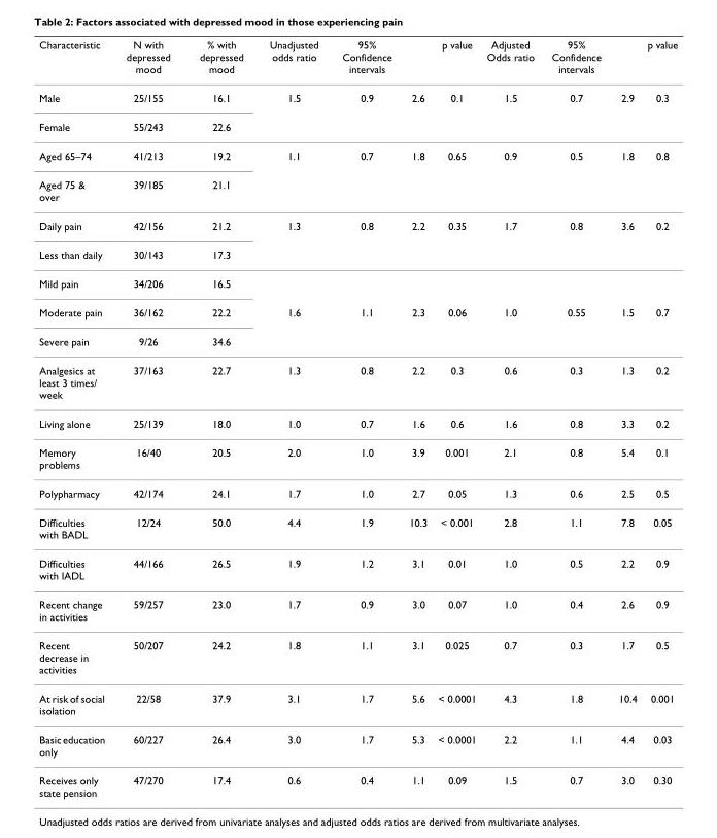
<table><thead><tr><td>Characteristic</td><td>N with depressed mood</td><td>% with depressed mood</td><td>Unadjusted odds ratio</td><td>95% Confidence intervals</td><td></td><td>p value</td><td>Adjusted Odds ratio</td><td>95% Confidence intervals</td><td></td><td>p value</td></tr></thead><tbody><tr><td>Male</td><td>25/155</td><td>16.1</td><td>1.5</td><td>0.9</td><td>2.6</td><td>0.1</td><td>1.5</td><td>0.7</td><td>2.9</td><td>0.3</td></tr><tr><td>Female</td><td>55/243</td><td>22.6</td><td></td><td></td><td></td><td></td><td></td><td></td><td></td><td></td></tr><tr><td>Aged 65–74</td><td>41/213</td><td>19.2</td><td>1.1</td><td>0.7</td><td>1.8</td><td>0.65</td><td>0.9</td><td>0.5</td><td>1.8</td><td>0.8</td></tr><tr><td>Aged 75 &amp; over</td><td>39/185</td><td>21.1</td><td></td><td></td><td></td><td></td><td></td><td></td><td></td><td></td></tr><tr><td>Daily pain</td><td>42/156</td><td>21.2</td><td>1.3</td><td>0.8</td><td>2.2</td><td>0.35</td><td>1.7</td><td>0.8</td><td>3.6</td><td>0.2</td></tr><tr><td>Less than daily</td><td>30/143</td><td>17.3</td><td></td><td></td><td></td><td></td><td></td><td></td><td></td><td></td></tr><tr><td>Mild pain</td><td>34/206</td><td>16.5</td><td></td><td></td><td></td><td></td><td></td><td></td><td></td><td></td></tr><tr><td>Moderate pain</td><td>36/162</td><td>22.2</td><td>1.6</td><td>1.1</td><td>2.3</td><td>0.06</td><td>1.0</td><td>0.55</td><td>1.5</td><td>0.7</td></tr><tr><td>Severe pain</td><td>9/26</td><td>34.6</td><td></td><td></td><td></td><td></td><td></td><td></td><td></td><td></td></tr><tr><td>Analgesics at least 3 times/ week</td><td>37/163</td><td>22.7</td><td>1.3</td><td>0.8</td><td>2.2</td><td>0.3</td><td>0.6</td><td>0.3</td><td>1.3</td><td>0.2</td></tr><tr><td>Living alone</td><td>25/139</td><td>18.0</td><td>1.0</td><td>0.7</td><td>1.6</td><td>0.6</td><td>1.6</td><td>0.8</td><td>3.3</td><td>0.2</td></tr><tr><td>Memory problems</td><td>16/40</td><td>20.5</td><td>2.0</td><td>1.0</td><td>3.9</td><td>0.001</td><td>2.1</td><td>0.8</td><td>5.4</td><td>0.1</td></tr><tr><td>Polypharmacy</td><td>42/174</td><td>24.1</td><td>1.7</td><td>1.0</td><td>2.7</td><td>0.05</td><td>1.3</td><td>0.6</td><td>2.5</td><td>0.5</td></tr><tr><td>Difficulties with BADL</td><td>12/24</td><td>50.0</td><td>4.4</td><td>1.9</td><td>10.3</td><td>&lt; 0.001</td><td>2.8</td><td>1.1</td><td>7.8</td><td>0.05</td></tr><tr><td>Difficulties with IADL</td><td>44/166</td><td>26.5</td><td>1.9</td><td>1.2</td><td>3.1</td><td>0.01</td><td>1.0</td><td>0.5</td><td>2.2</td><td>0.9</td></tr><tr><td>Recent change in activities</td><td>59/257</td><td>23.0</td><td>1.7</td><td>0.9</td><td>3.0</td><td>0.07</td><td>1.0</td><td>0.4</td><td>2.6</td><td>0.9</td></tr><tr><td>Recent decrease in activities</td><td>50/207</td><td>24.2</td><td>1.8</td><td>1.1</td><td>3.1</td><td>0.025</td><td>0.7</td><td>0.3</td><td>1.7</td><td>0.5</td></tr><tr><td>At risk of social isolation</td><td>22/58</td><td>37.9</td><td>3.1</td><td>1.7</td><td>5.6</td><td>&lt; 0.0001</td><td>4.3</td><td>1.8</td><td>10.4</td><td>0.001</td></tr><tr><td>Basic education only</td><td>60/227</td><td>26.4</td><td>3.0</td><td>1.7</td><td>5.3</td><td>&lt; 0.0001</td><td>2.2</td><td>1.1</td><td>4.4</td><td>0.03</td></tr><tr><td>Receives only state pension</td><td>47/270</td><td>17.4</td><td>0.6</td><td>0.4</td><td>1.1</td><td>0.09</td><td>1.5</td><td>0.7</td><td>3.0</td><td>0.30</td></tr></tbody></table>